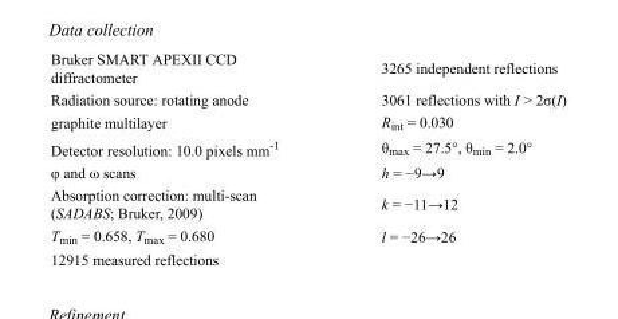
<table><tbody><tr><td>Bruker SMART APEXII CCD diffractometer</td><td>3265 independent reflections</td></tr><tr><td>Radiation source: rotating anode</td><td>3061 reflections with I &gt; 2σ(I)</td></tr><tr><td>graphite multilayer</td><td>R<sub>int</sub> = 0.030</td></tr><tr><td>Detector resolution: 10.0 pixels mm<sup>-1</sup></td><td>θ<sub>max</sub> = 27.5°, θ<sub>min</sub> = 2.0°</td></tr><tr><td>φ and ω scans</td><td>h = −9→9</td></tr><tr><td>Absorption correction: multi-scan (SADABS; Bruker, 2009)</td><td>k = −11→12</td></tr><tr><td>T<sub>min</sub> = 0.658, T<sub>max</sub> = 0.680</td><td>l = −26→26</td></tr><tr><td>12915 measured reflections</td><td></td></tr></tbody></table>